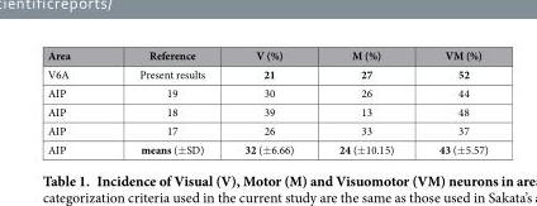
<table><thead><tr><td>Area</td><td>Reference</td><td>V (%)</td><td>M (%)</td><td>VM (%)</td></tr></thead><tbody><tr><td>V6A</td><td>Present results</td><td>21</td><td>27</td><td>52</td></tr><tr><td>AIP</td><td>19</td><td>30</td><td>26</td><td>44</td></tr><tr><td>AIP</td><td>18</td><td>39</td><td>13</td><td>48</td></tr><tr><td>AIP</td><td>17</td><td>26</td><td>33</td><td>37</td></tr><tr><td>AIP</td><td>means (± SD)</td><td>32 (± 6.66)</td><td>24 (± 10.15)</td><td>43 (± 5.57)</td></tr></tbody></table>